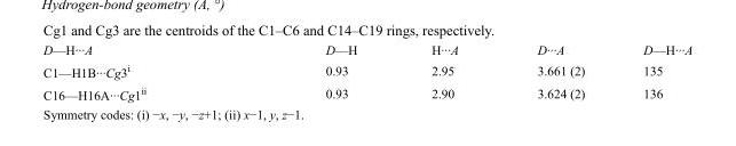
<table><tbody><tr><td>D—H···A</td><td>D—H</td><td>H···A</td><td>D···A</td><td>D—H···A</td></tr><tr><td>C1—H1B···Cg3<sup>i</sup></td><td>0.93</td><td>2.95</td><td>3.661 (2)</td><td>135</td></tr><tr><td>C16—H16A···Cg1<sup>ii</sup></td><td>0.93</td><td>2.90</td><td>3.624 (2)</td><td>136</td></tr></tbody></table>